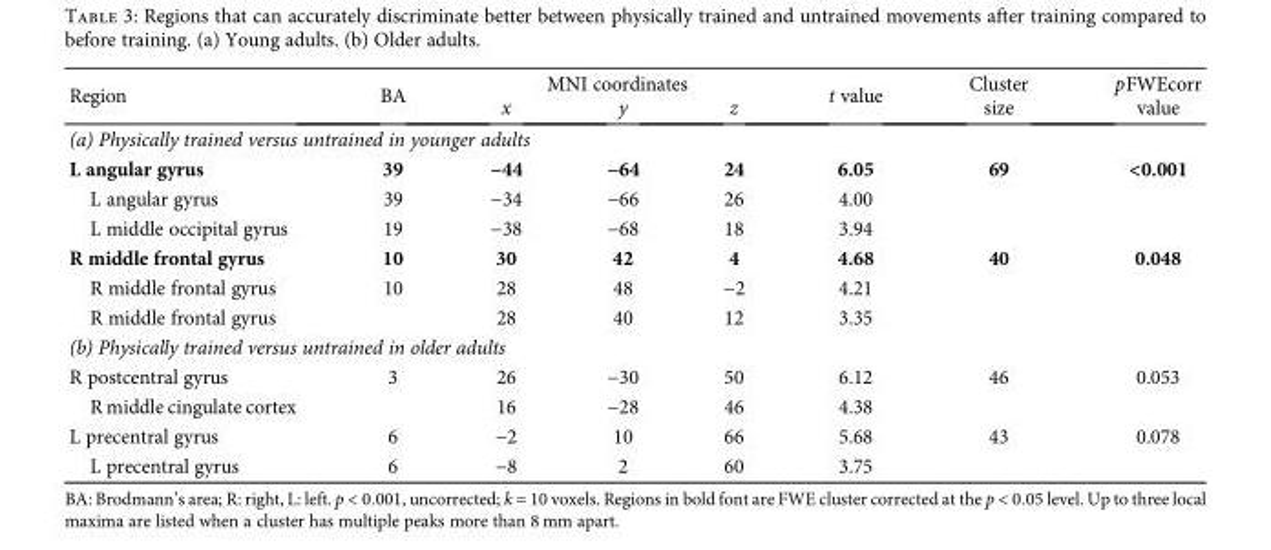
<table><thead><tr><td rowspan="2">Region</td><td rowspan="2">BA</td><td colspan="3">MNI coordinates</td><td rowspan="2">t value</td><td rowspan="2">Cluster size</td><td rowspan="2">pFWEcorr value</td></tr><tr><td>x</td><td>y</td><td>z</td></tr></thead><tbody><tr><td colspan="8">(a) Physically trained versus untrained in younger adults</td></tr><tr><td>L angular gyrus</td><td>39</td><td>−44</td><td>−64</td><td>24</td><td>6.05</td><td>69</td><td>&lt;0.001</td></tr><tr><td>L angular gyrus</td><td>39</td><td>−34</td><td>−66</td><td>26</td><td>4.00</td><td></td><td></td></tr><tr><td>L middle occipital gyrus</td><td>19</td><td>−38</td><td>−68</td><td>18</td><td>3.94</td><td></td><td></td></tr><tr><td>R middle frontal gyrus</td><td>10</td><td>30</td><td>42</td><td>4</td><td>4.68</td><td>40</td><td>0.048</td></tr><tr><td>R middle frontal gyrus</td><td>10</td><td>28</td><td>48</td><td>−2</td><td>4.21</td><td></td><td></td></tr><tr><td>R middle frontal gyrus</td><td></td><td>28</td><td>40</td><td>12</td><td>3.35</td><td></td><td></td></tr><tr><td colspan="8">(b) Physically trained versus untrained in older adults</td></tr><tr><td>R postcentral gyrus</td><td>3</td><td>26</td><td>−30</td><td>50</td><td>6.12</td><td>46</td><td>0.053</td></tr><tr><td>R middle cingulate cortex</td><td></td><td>16</td><td>−28</td><td>46</td><td>4.38</td><td></td><td></td></tr><tr><td>L precentral gyrus</td><td>6</td><td>−2</td><td>10</td><td>66</td><td>5.68</td><td>43</td><td>0.078</td></tr><tr><td>L precentral gyrus</td><td>6</td><td>−8</td><td>2</td><td>60</td><td>3.75</td><td></td><td></td></tr></tbody></table>